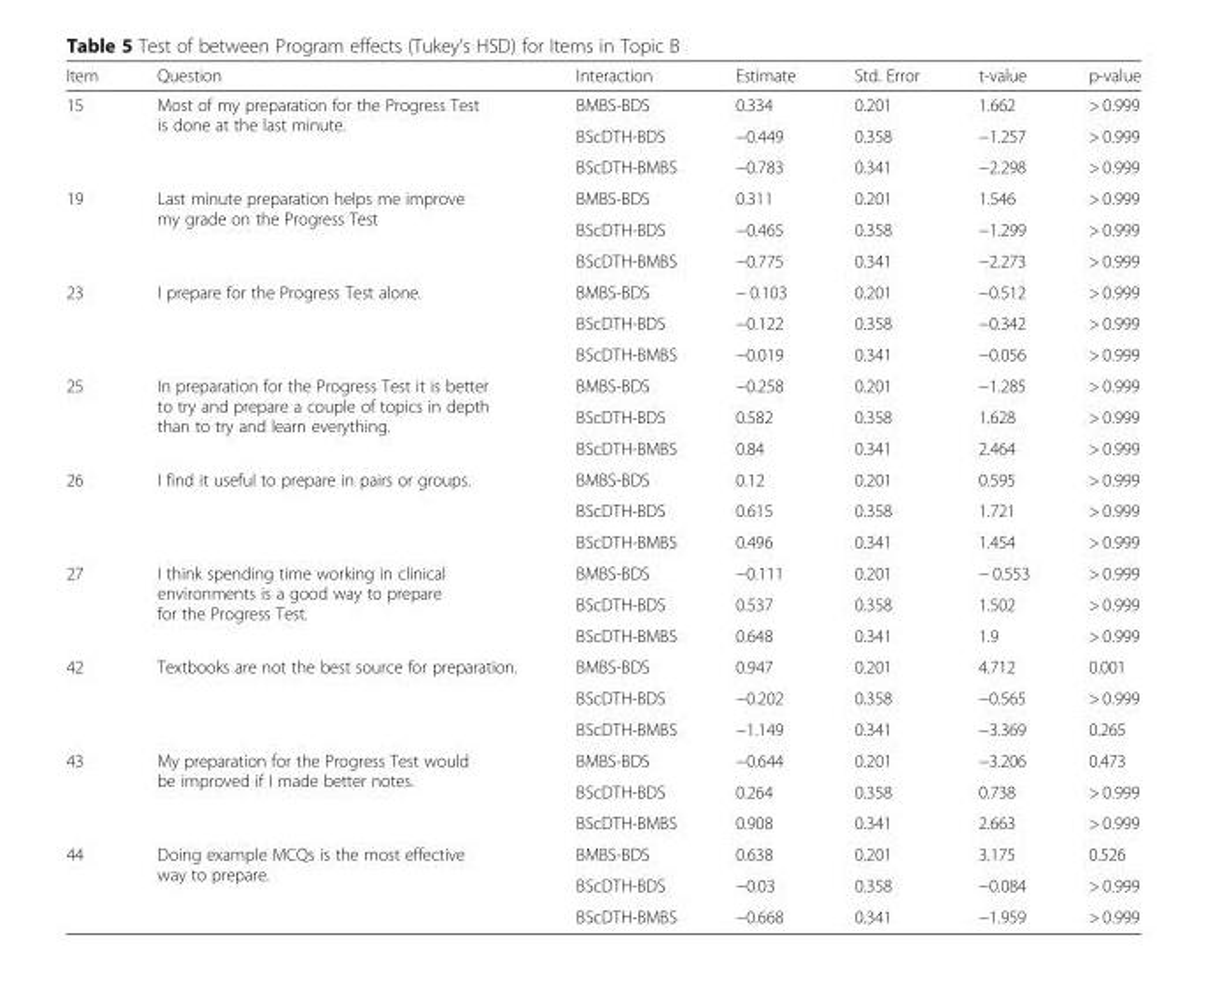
<table><thead><tr><td>Item</td><td>Question</td><td>Interaction</td><td>Estimate</td><td>Std. Error</td><td>t-value</td><td>p-value</td></tr></thead><tbody><tr><td rowspan="3">15</td><td rowspan="3">Most of my preparation for the Progress Test is done at the last minute.</td><td>BMBS-BDS</td><td>0.334</td><td>0.201</td><td>1.662</td><td>&gt; 0.999</td></tr><tr><td>BScDTH-BDS</td><td>−0.449</td><td>0.358</td><td>−1.257</td><td>&gt; 0.999</td></tr><tr><td>BScDTH-BMBS</td><td>−0.783</td><td>0.341</td><td>−2.298</td><td>&gt; 0.999</td></tr><tr><td rowspan="3">19</td><td rowspan="3">Last minute preparation helps me improve my grade on the Progress Test</td><td>BMBS-BDS</td><td>0.311</td><td>0.201</td><td>1.546</td><td>&gt; 0.999</td></tr><tr><td>BScDTH-BDS</td><td>−0.465</td><td>0.358</td><td>−1.299</td><td>&gt; 0.999</td></tr><tr><td>BScDTH-BMBS</td><td>−0.775</td><td>0.341</td><td>−2.273</td><td>&gt; 0.999</td></tr><tr><td rowspan="3">23</td><td rowspan="3">I prepare for the Progress Test alone.</td><td>BMBS-BDS</td><td>− 0.103</td><td>0.201</td><td>−0.512</td><td>&gt; 0.999</td></tr><tr><td>BScDTH-BDS</td><td>−0.122</td><td>0.358</td><td>−0.342</td><td>&gt; 0.999</td></tr><tr><td>BScDTH-BMBS</td><td>−0.019</td><td>0.341</td><td>−0.056</td><td>&gt; 0.999</td></tr><tr><td rowspan="3">25</td><td rowspan="3">In preparation for the Progress Test it is better to try and prepare a couple of topics in depth than to try and learn everything.</td><td>BMBS-BDS</td><td>−0.258</td><td>0.201</td><td>−1.285</td><td>&gt; 0.999</td></tr><tr><td>BScDTH-BDS</td><td>0.582</td><td>0.358</td><td>1.628</td><td>&gt; 0.999</td></tr><tr><td>BScDTH-BMBS</td><td>0.84</td><td>0.341</td><td>2.464</td><td>&gt; 0.999</td></tr><tr><td rowspan="3">26</td><td rowspan="3">I find it useful to prepare in pairs or groups.</td><td>BMBS-BDS</td><td>0.12</td><td>0.201</td><td>0.595</td><td>&gt; 0.999</td></tr><tr><td>BScDTH-BDS</td><td>0.615</td><td>0.358</td><td>1.721</td><td>&gt; 0.999</td></tr><tr><td>BScDTH-BMBS</td><td>0.496</td><td>0.341</td><td>1.454</td><td>&gt; 0.999</td></tr><tr><td rowspan="3">27</td><td rowspan="3">I think spending time working in clinical environments is a good way to prepare for the Progress Test.</td><td>BMBS-BDS</td><td>−0.111</td><td>0.201</td><td>− 0.553</td><td>&gt; 0.999</td></tr><tr><td>BScDTH-BDS</td><td>0.537</td><td>0.358</td><td>1.502</td><td>&gt; 0.999</td></tr><tr><td>BScDTH-BMBS</td><td>0.648</td><td>0.341</td><td>1.9</td><td>&gt; 0.999</td></tr><tr><td rowspan="3">42</td><td rowspan="3">Textbooks are not the best source for preparation.</td><td>BMBS-BDS</td><td>0.947</td><td>0.201</td><td>4.712</td><td>0.001</td></tr><tr><td>BScDTH-BDS</td><td>−0.202</td><td>0.358</td><td>−0.565</td><td>&gt; 0.999</td></tr><tr><td>BScDTH-BMBS</td><td>−1.149</td><td>0.341</td><td>−3.369</td><td>0.265</td></tr><tr><td rowspan="3">43</td><td rowspan="3">My preparation for the Progress Test would be improved if I made better notes.</td><td>BMBS-BDS</td><td>−0.644</td><td>0.201</td><td>−3.206</td><td>0.473</td></tr><tr><td>BScDTH-BDS</td><td>0.264</td><td>0.358</td><td>0.738</td><td>&gt; 0.999</td></tr><tr><td>BScDTH-BMBS</td><td>0.908</td><td>0.341</td><td>2.663</td><td>&gt; 0.999</td></tr><tr><td rowspan="3">44</td><td rowspan="3">Doing example MCQs is the most effective way to prepare.</td><td>BMBS-BDS</td><td>0.638</td><td>0.201</td><td>3.175</td><td>0.526</td></tr><tr><td>BScDTH-BDS</td><td>−0.03</td><td>0.358</td><td>−0.084</td><td>&gt; 0.999</td></tr><tr><td>BScDTH-BMBS</td><td>−0.668</td><td>0.341</td><td>−1.959</td><td>&gt; 0.999</td></tr></tbody></table>